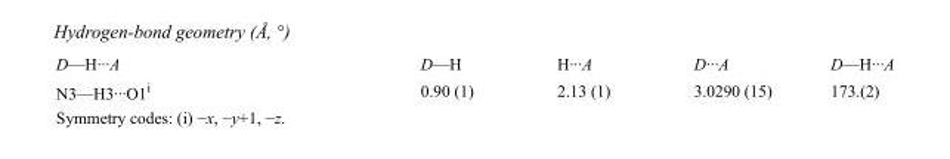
<table><tbody><tr><td>D—H···A</td><td>D—H</td><td>H···A</td><td>D···A</td><td>D—H···A</td></tr><tr><td>N3—H3···O1<sup>i</sup></td><td>0.90 (1)</td><td>2.13 (1)</td><td>3.0290 (15)</td><td>173.(2)</td></tr></tbody></table>